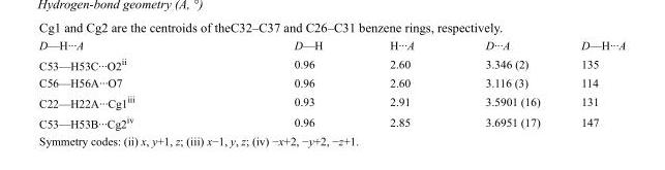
<table><tbody><tr><td>D—H···A</td><td>D—H</td><td>H···A</td><td>D···A</td><td>D—H···A</td></tr><tr><td>C53—H53C···O2<sup>ii</sup></td><td>0.96</td><td>2.60</td><td>3.346 (2)</td><td>135</td></tr><tr><td>C56—H56A···O7</td><td>0.96</td><td>2.60</td><td>3.116 (3)</td><td>114</td></tr><tr><td>C22—H22A···Cg1<sup>iii</sup></td><td>0.93</td><td>2.91</td><td>3.5901 (16)</td><td>131</td></tr><tr><td>C53—H53B···Cg2<sup>iv</sup></td><td>0.96</td><td>2.85</td><td>3.6951 (17)</td><td>147</td></tr></tbody></table>